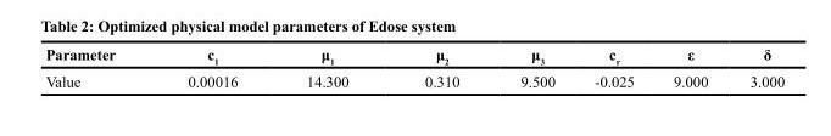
<table><thead><tr><td>Parameter</td><td>c<sub>1</sub></td><td>μ<sub>1</sub></td><td>μ<sub>2</sub></td><td>μ<sub>3</sub></td><td>c<sub>r</sub></td><td>ε</td><td>δ</td></tr></thead><tbody><tr><td>Value</td><td>0.00016</td><td>14.300</td><td>0.310</td><td>9.500</td><td>-0.025</td><td>9.000</td><td>3.000</td></tr></tbody></table>